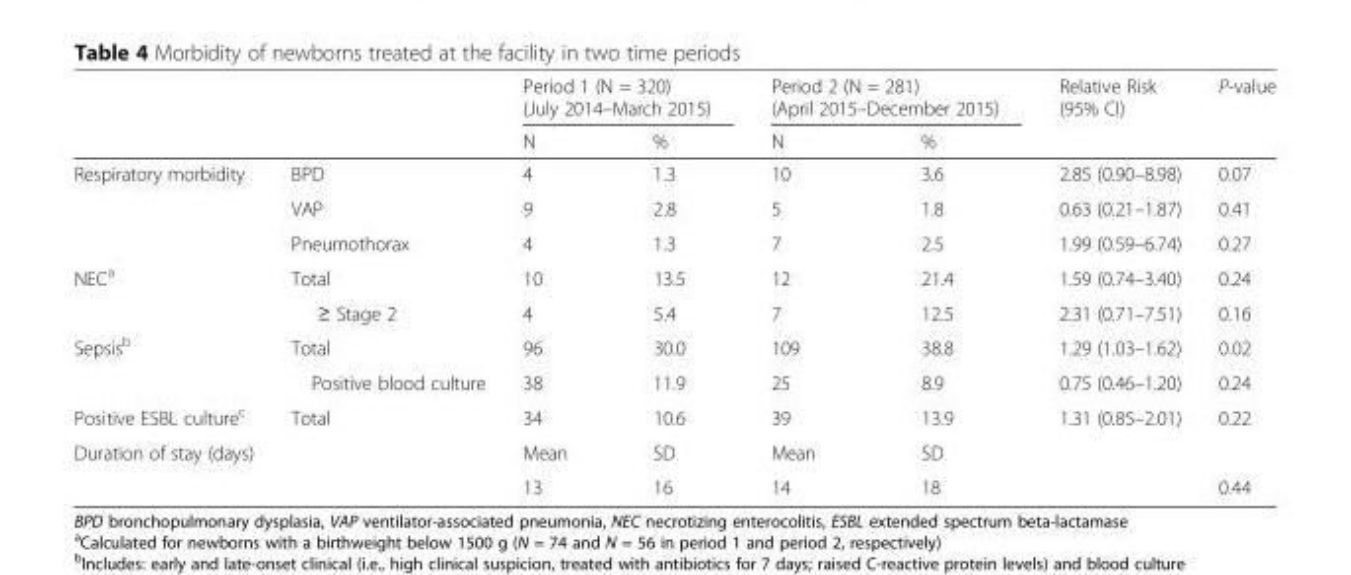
<table><thead><tr><td rowspan="2"></td><td rowspan="2"></td><td colspan="2">Period 1 (N = 320) (July 2014–March 2015)</td><td colspan="2">Period 2 (N = 281) (April 2015–December 2015)</td><td rowspan="2">Relative Risk (95% CI)</td><td rowspan="2">P-value</td></tr><tr><td>N</td><td>%</td><td>N</td><td>%</td></tr></thead><tbody><tr><td rowspan="3">Respiratory morbidity</td><td>BPD</td><td>4</td><td>1.3</td><td>10</td><td>3.6</td><td>2.85 (0.90–8.98)</td><td>0.07</td></tr><tr><td>VAP</td><td>9</td><td>2.8</td><td>5</td><td>1.8</td><td>0.63 (0.21–1.87)</td><td>0.41</td></tr><tr><td>Pneumothorax</td><td>4</td><td>1.3</td><td>7</td><td>2.5</td><td>1.99 (0.59–6.74)</td><td>0.27</td></tr><tr><td rowspan="2">NEC<sup>a</sup></td><td>Total</td><td>10</td><td>13.5</td><td>12</td><td>21.4</td><td>1.59 (0.74–3.40)</td><td>0.24</td></tr><tr><td>≥ Stage 2</td><td>4</td><td>5.4</td><td>7</td><td>12.5</td><td>2.31 (0.71–7.51)</td><td>0.16</td></tr><tr><td rowspan="2">Sepsis<sup>b</sup></td><td>Total</td><td>96</td><td>30.0</td><td>109</td><td>38.8</td><td>1.29 (1.03–1.62)</td><td>0.02</td></tr><tr><td>Positive blood culture</td><td>38</td><td>11.9</td><td>25</td><td>8.9</td><td>0.75 (0.46–1.20)</td><td>0.24</td></tr><tr><td>Positive ESBL culture<sup>c</sup></td><td>Total</td><td>34</td><td>10.6</td><td>39</td><td>13.9</td><td>1.31 (0.85–2.01)</td><td>0.22</td></tr><tr><td rowspan="2">Duration of stay (days)</td><td rowspan="2"></td><td>Mean</td><td>SD</td><td>Mean</td><td>SD</td><td></td><td></td></tr><tr><td>13</td><td>16</td><td>14</td><td>18</td><td></td><td>0.44</td></tr></tbody></table>